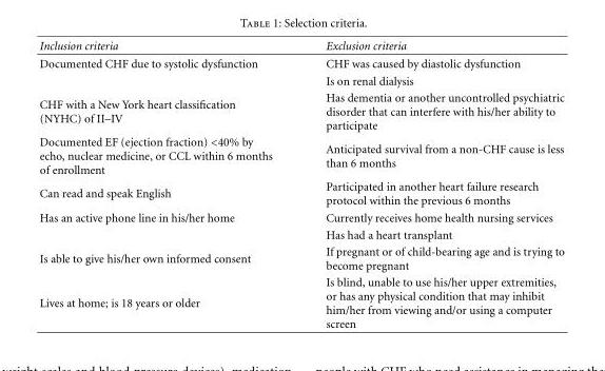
<table><thead><tr><td>Inclusion criteria</td><td>Exclusion criteria</td></tr></thead><tbody><tr><td rowspan="2">Documented CHF due to systolic dysfunction</td><td>CHF was caused by diastolic dysfunction</td></tr><tr><td>Is on renal dialysis</td></tr><tr><td>CHF with a New York heart classification (NYHC) of II–IV</td><td>Has dementia or another uncontrolled psychiatric disorder that can interfere with his/her ability to participate</td></tr><tr><td>Documented EF (ejection fraction) &lt;40% by echo, nuclear medicine, or CCL within 6 months of enrollment</td><td>Anticipated survival from a non-CHF cause is less than 6 months</td></tr><tr><td>Can read and speak English</td><td>Participated in another heart failure research protocol within the previous 6 months</td></tr><tr><td rowspan="2">Has an active phone line in his/her home</td><td>Currently receives home health nursing services</td></tr><tr><td>Has had a heart transplant</td></tr><tr><td>Is able to give his/her own informed consent</td><td>If pregnant or of child-bearing age and is trying to become pregnant</td></tr><tr><td>Lives at home; is 18 years or older</td><td>Is blind, unable to use his/her upper extremities, or has any physical condition that may inhibit him/her from viewing and/or using a computer screen</td></tr></tbody></table>